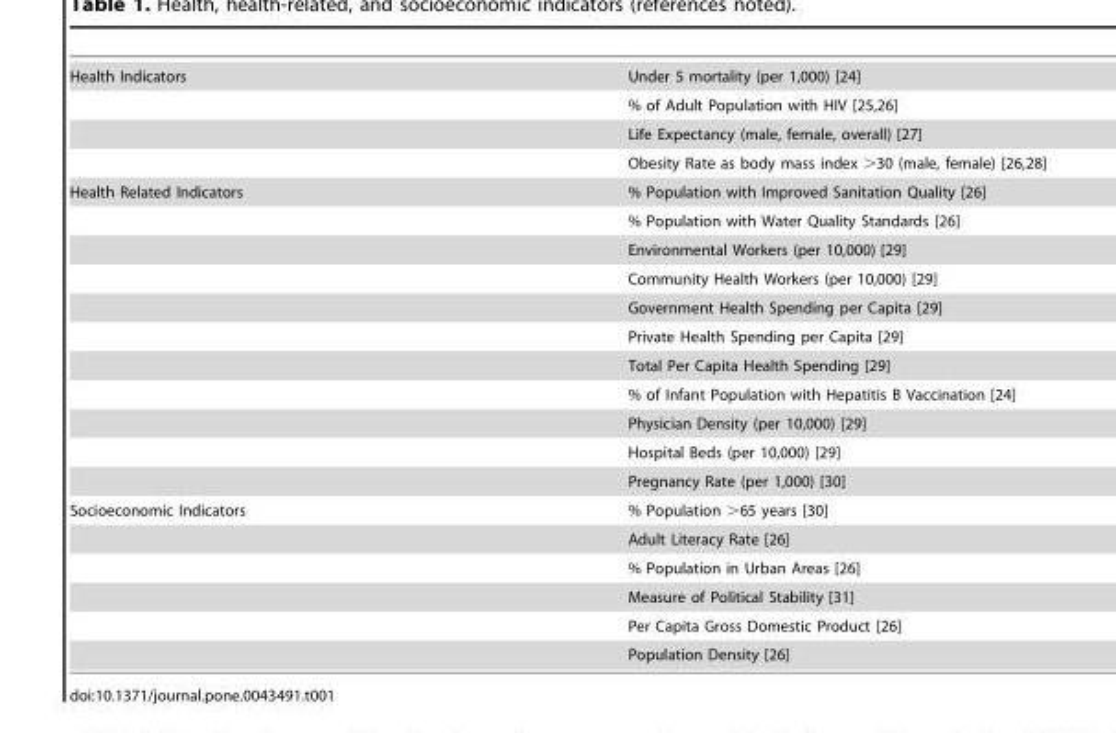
<table><tbody><tr><td rowspan="4">Health Indicators</td><td>Under 5 mortality (per 1,000) [24]</td></tr><tr><td>% of Adult Population with HIV [25,26]</td></tr><tr><td>Life Expectancy (male, female, overall) [27]</td></tr><tr><td>Obesity Rate as body mass index .30 (male, female) [26,28]</td></tr><tr><td rowspan="11">Health Related Indicators</td><td>% Population with Improved Sanitation Quality [26]</td></tr><tr><td>% Population with Water Quality Standards [26]</td></tr><tr><td>Environmental Workers (per 10,000) [29]</td></tr><tr><td>Community Health Workers (per 10,000) [29]</td></tr><tr><td>Government Health Spending per Capita [29]</td></tr><tr><td>Private Health Spending per Capita [29]</td></tr><tr><td>Total Per Capita Health Spending [29]</td></tr><tr><td>% of Infant Population with Hepatitis B Vaccination [24]</td></tr><tr><td>Physician Density (per 10,000) [29]</td></tr><tr><td>Hospital Beds (per 10,000) [29]</td></tr><tr><td>Pregnancy Rate (per 1,000) [30]</td></tr><tr><td rowspan="6">Socioeconomic Indicators</td><td>% Population &gt;65 years [30]</td></tr><tr><td>Adult Literacy Rate [26]</td></tr><tr><td>% Population in Urban Areas [26]</td></tr><tr><td>Measure of Political Stability [31]</td></tr><tr><td>Per Capita Gross Domestic Product [26]</td></tr><tr><td>Population Density [26]</td></tr></tbody></table>